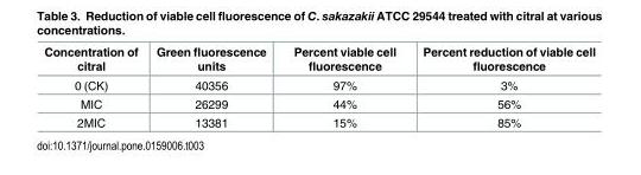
<table><thead><tr><td>Concentration of citral</td><td>Green fluorescence units</td><td>Percent viable cell fluorescence</td><td>Percent reduction of viable cell fluorescence</td></tr></thead><tbody><tr><td>0 (CK)</td><td>40356</td><td>97%</td><td>3%</td></tr><tr><td>MIC</td><td>26299</td><td>44%</td><td>56%</td></tr><tr><td>2MIC</td><td>13381</td><td>15%</td><td>85%</td></tr></tbody></table>